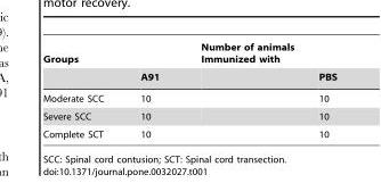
<table><thead><tr><td rowspan="2">Groups</td><td rowspan="2">A91</td><td rowspan="2">Number of animals Immunized with</td><td rowspan="2">PBS</td></tr><tr></tr></thead><tbody><tr><td>Moderate SCC</td><td>10</td><td></td><td>10</td></tr><tr><td>Severe SCC</td><td>10</td><td></td><td>10</td></tr><tr><td>Complete SCT</td><td>10</td><td></td><td>10</td></tr></tbody></table>